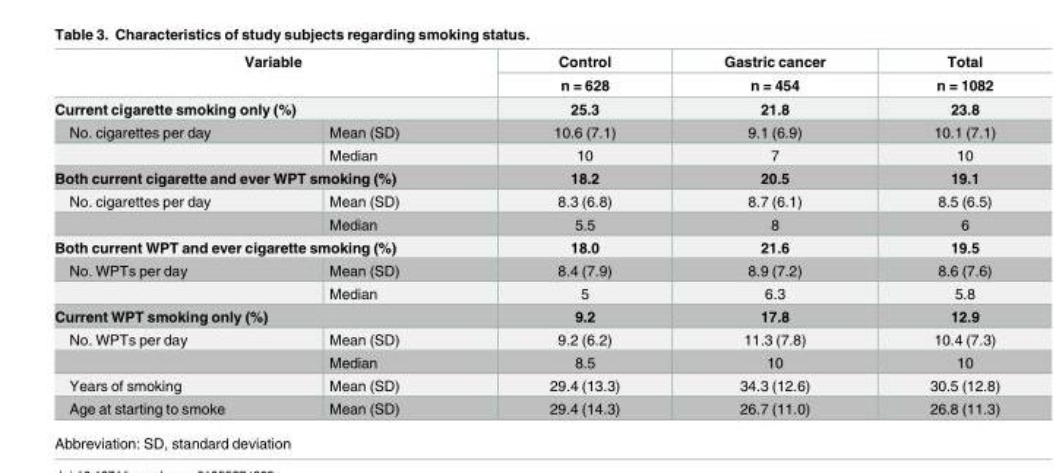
<table><thead><tr><td rowspan="3" colspan="2">Variable Current cigarette smoking only (%)</td><td rowspan="4">Control n = 628 25.3 10.6 (7.1)</td><td rowspan="4">Gastric cancer n = 454 21.8 9.1 (6.9)</td><td rowspan="4">Total n = 1082 23.8 10.1 (7.1)</td></tr><tr></tr><tr></tr><tr><td>No. cigarettes per day</td><td>Mean (SD)</td></tr></thead><tbody><tr><td></td><td>Median</td><td>10</td><td>7</td><td>10</td></tr><tr><td colspan="2">Both current cigarette and ever WPT smoking (%)</td><td>18.2</td><td>20.5</td><td>19.1</td></tr><tr><td rowspan="2">No. cigarettes per day</td><td>Mean (SD)</td><td>8.3 (6.8)</td><td>8.7 (6.1)</td><td>8.5 (6.5)</td></tr><tr><td>Median</td><td>5.5</td><td>8</td><td>6</td></tr><tr><td colspan="2">Both current WPT and ever cigarette smoking (%)</td><td>18.0</td><td>21.6</td><td>19.5</td></tr><tr><td rowspan="2">No. WPTs per day</td><td>Mean (SD)</td><td>8.4 (7.9)</td><td>8.9 (7.2)</td><td>8.6 (7.6)</td></tr><tr><td>Median</td><td>5</td><td>6.3</td><td>5.8</td></tr><tr><td colspan="2">Current WPT smoking only (%)</td><td>9.2</td><td>17.8</td><td>12.9</td></tr><tr><td rowspan="2">No. WPTs per day</td><td>Mean (SD)</td><td>9.2 (6.2)</td><td>11.3 (7.8)</td><td>10.4 (7.3)</td></tr><tr><td>Median</td><td>8.5</td><td>10</td><td>10</td></tr><tr><td>Years of smoking</td><td>Mean (SD)</td><td>29.4 (13.3)</td><td>34.3 (12.6)</td><td>30.5 (12.8)</td></tr><tr><td>Age at starting to smoke</td><td>Mean (SD)</td><td>29.4 (14.3)</td><td>26.7 (11.0)</td><td>26.8 (11.3)</td></tr></tbody></table>